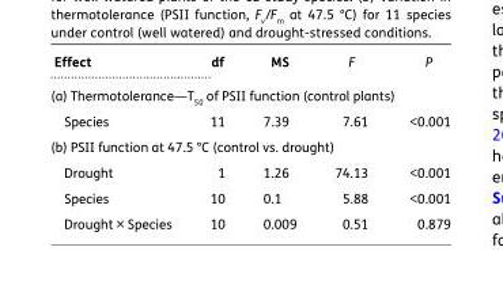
<table><thead><tr><td>Effect</td><td>df</td><td>MS</td><td>F</td><td>P</td></tr></thead><tbody><tr><td colspan="5">(a) Thermotolerance—T<sub>50</sub> of PSII function (control plants)</td></tr><tr><td>Species</td><td>11</td><td>7.39</td><td>7.61</td><td>&lt;0.001</td></tr><tr><td colspan="5">(b) PSII function at 47.5 °C (control vs. drought)</td></tr><tr><td>Drought</td><td>1</td><td>1.26</td><td>74.13</td><td>&lt;0.001</td></tr><tr><td>Species</td><td>10</td><td>0.1</td><td>5.88</td><td>&lt;0.001</td></tr><tr><td>Drought × Species</td><td>10</td><td>0.009</td><td>0.51</td><td>0.879</td></tr></tbody></table>